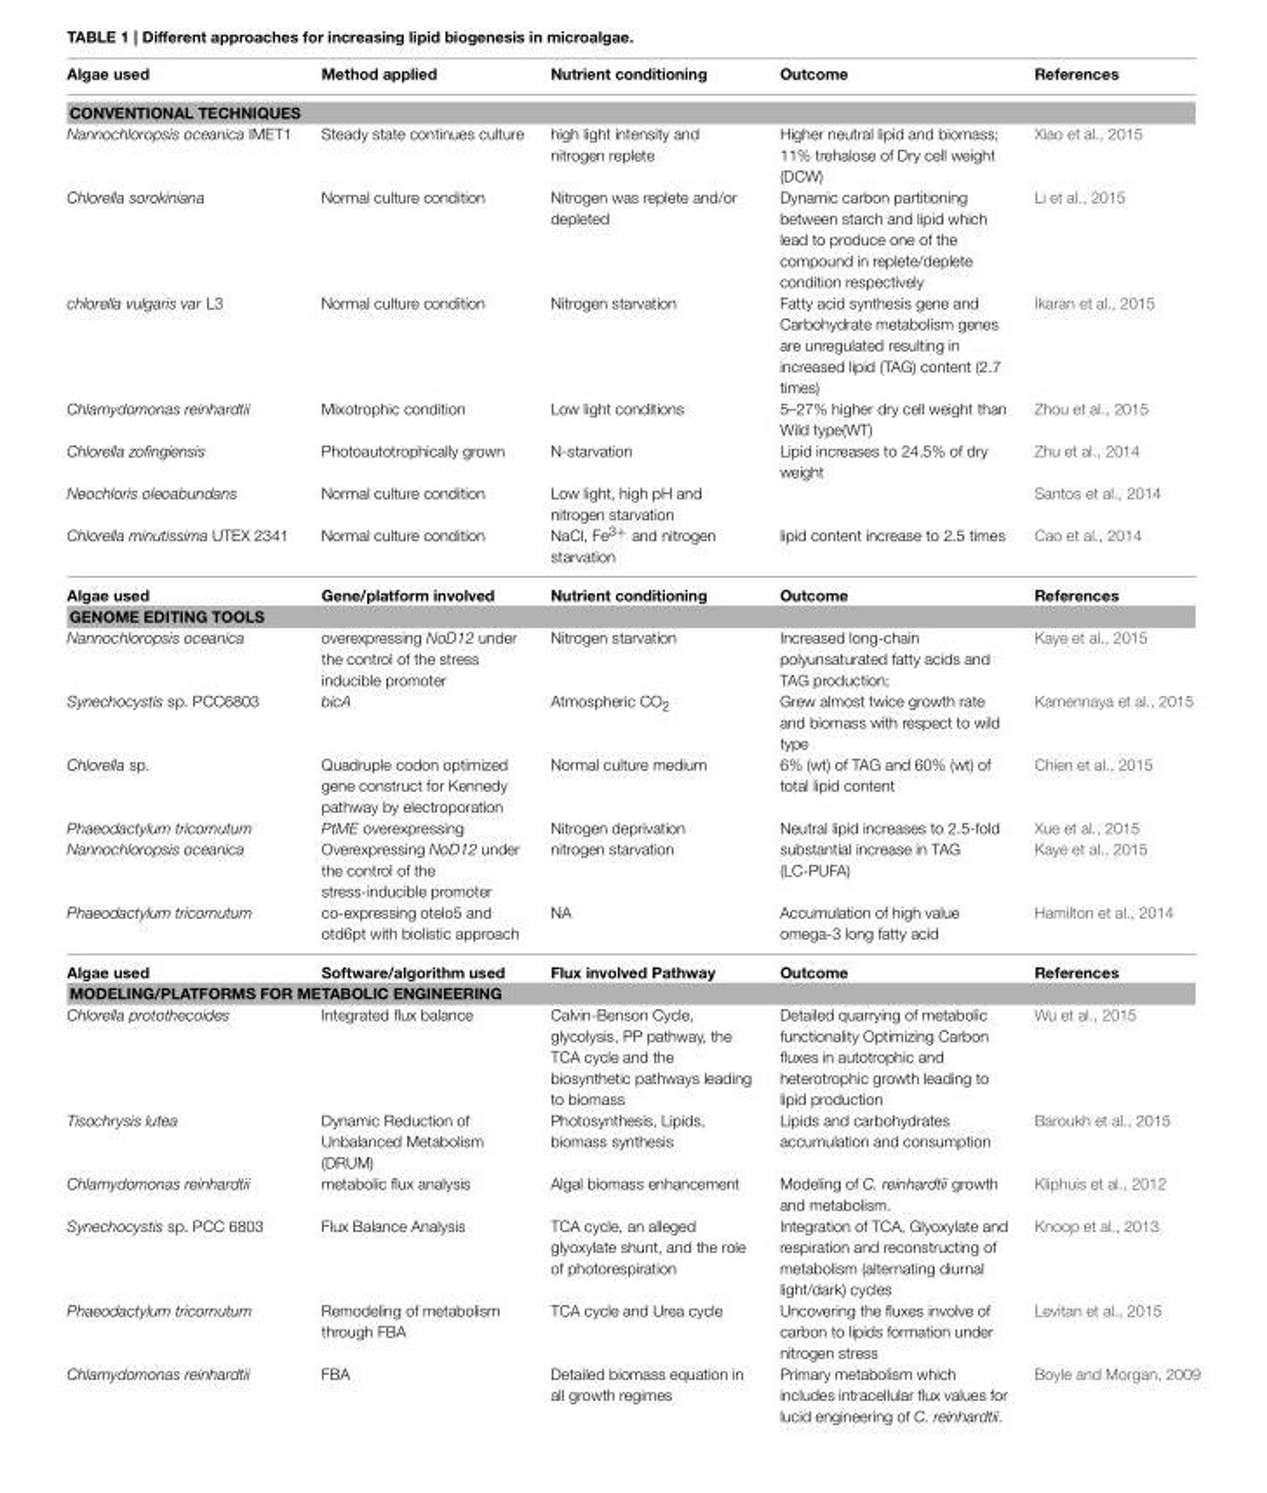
<table><thead><tr><td>Algae used</td><td>Method applied</td><td>Nutrient conditioning</td><td>Outcome</td><td>References</td></tr></thead><tbody><tr><td colspan="5">CONVENTIONAL TECHNIQUES</td></tr><tr><td>Nannochloropsis oceanica IMET1</td><td>Steady state continues culture</td><td>high light intensity and nitrogen replete</td><td>Higher neutral lipid and biomass; 11% trehalose of Dry cell weight (DCW)</td><td>Xiao et al., 2015</td></tr><tr><td>Chlorella sorokiniana</td><td>Normal culture condition</td><td>Nitrogen was replete and/or depleted</td><td>Dynamic carbon partitioning between starch and lipid which lead to produce one of the compound in replete/deplete condition respectively</td><td>Li et al., 2015</td></tr><tr><td>chlorella vulgaris var L3</td><td>Normal culture condition</td><td>Nitrogen starvation</td><td>Fatty acid synthesis gene and Carbohydrate metabolism genes are unregulated resulting in increased lipid (TAG) content (2.7 times)</td><td>Ikaran et al., 2015</td></tr><tr><td>Chlamydomonas reinhardtii</td><td>Mixotrophic condition</td><td>Low light conditions</td><td>5–27% higher dry cell weight than Wild type(WT)</td><td>Zhou et al., 2015</td></tr><tr><td>Chlorella zofingiensis</td><td>Photoautotrophically grown</td><td>N-starvation</td><td>Lipid increases to 24.5% of dry weight</td><td>Zhu et al., 2014</td></tr><tr><td>Neochloris oleoabundans</td><td>Normal culture condition</td><td>Low light, high pH and nitrogen starvation</td><td></td><td>Santos et al., 2014</td></tr><tr><td>Chlorella minutissima UTEX 2341</td><td>Normal culture condition</td><td>NaCl, Fe<sup>3+</sup> and nitrogen starvation</td><td>lipid content increase to 2.5 times</td><td>Cao et al., 2014</td></tr><tr><td>Algae used</td><td>Gene/platform involved</td><td>Nutrient conditioning</td><td>Outcome</td><td>References</td></tr><tr><td colspan="5">GENOME EDITING TOOLS</td></tr><tr><td>Nannochloropsis oceanica</td><td>overexpressing NoD12 under the control of the stress inducible promoter</td><td>Nitrogen starvation</td><td>Increased long-chain polyunsaturated fatty acids and TAG production;</td><td>Kaye et al., 2015</td></tr><tr><td>Synechocystis sp. PCC6803</td><td>bicA</td><td>Atmospheric CO<sub>2</sub></td><td>Grew almost twice growth rate and biomass with respect to wild type</td><td>Kamennaya et al., 2015</td></tr><tr><td>Chlorella sp.</td><td>Quadruple codon optimized gene construct for Kennedy pathway by electroporation</td><td>Normal culture medium</td><td>6% (wt) of TAG and 60% (wt) of total lipid content</td><td>Chien et al., 2015</td></tr><tr><td>Phaeodactylum tricornutum</td><td>PtME overexpressing</td><td>Nitrogen deprivation</td><td>Neutral lipid increases to 2.5-fold</td><td>Xue et al., 2015</td></tr><tr><td>Nannochloropsis oceanica</td><td>Overexpressing NoD12 under the control of the stress-inducible promoter</td><td>nitrogen starvation</td><td>substantial increase in TAG (LC-PUFA)</td><td>Kaye et al., 2015</td></tr><tr><td>Phaeodactylum tricornutum</td><td>co-expressing otelo5 and otd6pt with biolistic approach</td><td>NA</td><td>Accumulation of high value omega-3 long fatty acid</td><td>Hamilton et al., 2014</td></tr><tr><td>Algae used</td><td>Software/algorithm used</td><td>Flux involved Pathway</td><td>Outcome</td><td>References</td></tr><tr><td colspan="5">MODELING/PLATFORMS FOR METABOLIC ENGINEERING</td></tr><tr><td>Chlorella protothecoides</td><td>Integrated flux balance</td><td>Calvin-Benson Cycle, glycolysis, PP pathway, the TCA cycle and the biosynthetic pathways leading to biomass</td><td>Detailed quarrying of metabolic functionality Optimizing Carbon fluxes in autotrophic and heterotrophic growth leading to lipid production</td><td>Wu et al., 2015</td></tr><tr><td>Tisochrysis lutea</td><td>Dynamic Reduction of Unbalanced Metabolism (DRUM)</td><td>Photosynthesis, Lipids, biomass synthesis</td><td>Lipids and carbohydrates accumulation and consumption</td><td>Baroukh et al., 2015</td></tr><tr><td>Chlamydomonas reinhardtii</td><td>metabolic flux analysis</td><td>Algal biomass enhancement</td><td>Modeling of C. reinhardtii growth and metabolism.</td><td>Kliphuis et al., 2012</td></tr><tr><td>Synechocystis sp. PCC 6803</td><td>Flux Balance Analysis</td><td>TCA cycle, an alleged glyoxylate shunt, and the role of photorespiration</td><td>Integration of TCA, Glyoxylate and respiration and reconstructing of metabolism (alternating diurnal light/dark) cycles</td><td>Knoop et al., 2013</td></tr><tr><td>Phaeodactylum tricornutum</td><td>Remodeling of metabolism through FBA</td><td>TCA cycle and Urea cycle</td><td>Uncovering the fluxes involve of carbon to lipids formation under nitrogen stress</td><td>Levitan et al., 2015</td></tr><tr><td>Chlamydomonas reinhardtii</td><td>FBA</td><td>Detailed biomass equation in all growth regimes</td><td>Primary metabolism which includes intracellular flux values for lucid engineering of C. reinhardtii.</td><td>Boyle and Morgan, 2009</td></tr></tbody></table>